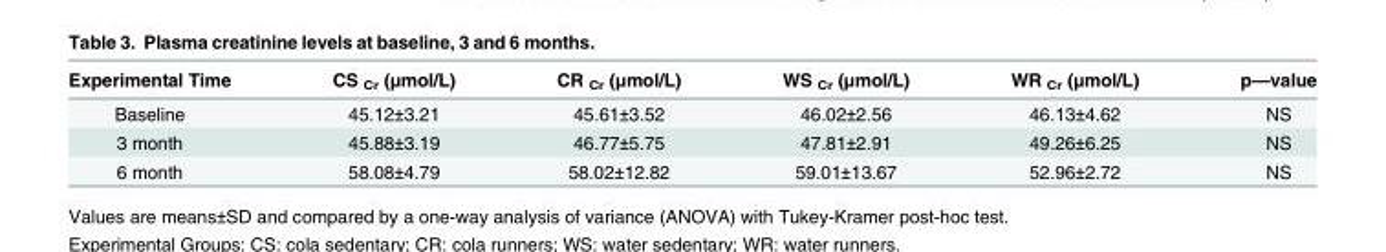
<table><thead><tr><td>Experimental Time</td><td>CS <sub>Cr</sub> (μmol/L)</td><td>CR <sub>Cr</sub> (μmol/L)</td><td>WS <sub>Cr</sub> (μmol/L)</td><td>WR <sub>Cr</sub> (μmol/L)</td><td>p—value</td></tr></thead><tbody><tr><td>Baseline</td><td>45.12±3.21</td><td>45.61±3.52</td><td>46.02±2.56</td><td>46.13±4.62</td><td>NS</td></tr><tr><td>3 month</td><td>45.88±3.19</td><td>46.77±5.75</td><td>47.81±2.91</td><td>49.26±6.25</td><td>NS</td></tr><tr><td>6 month</td><td>58.08±4.79</td><td>58.02±12.82</td><td>59.01±13.67</td><td>52.96±2.72</td><td>NS</td></tr></tbody></table>